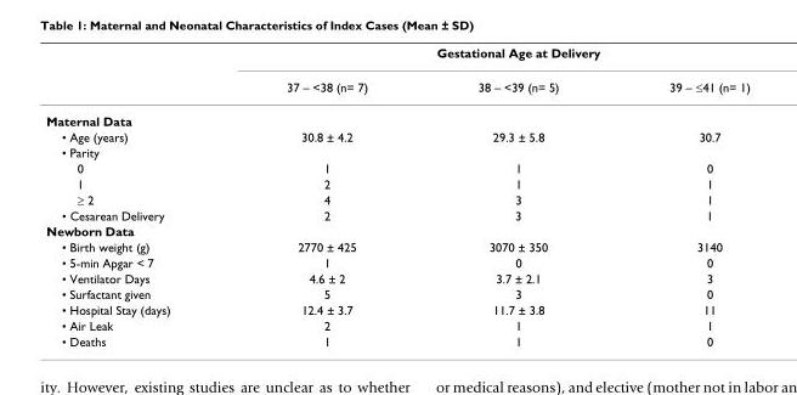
<table><thead><tr><td rowspan="2"></td><td colspan="3">Gestational Age at Delivery</td></tr><tr><td>37 – &lt;38 (n= 7)</td><td>38 – &lt;39 (n= 5)</td><td>39 – ≤41 (n= 1)</td></tr></thead><tbody><tr><td colspan="4">Maternal Data</td></tr><tr><td>• Age (years)</td><td>30.8 ± 4.2</td><td>29.3 ± 5.8</td><td>30.7</td></tr><tr><td colspan="4">• Parity</td></tr><tr><td>0</td><td>1</td><td>1</td><td>0</td></tr><tr><td>1</td><td>2</td><td>1</td><td>1</td></tr><tr><td>≥ 2</td><td>4</td><td>3</td><td>1</td></tr><tr><td>• Cesarean Delivery</td><td>2</td><td>3</td><td>1</td></tr><tr><td colspan="4">Newborn Data</td></tr><tr><td>• Birth weight (g)</td><td>2770 ± 425</td><td>3070 ± 350</td><td>3140</td></tr><tr><td>• 5-min Apgar &lt; 7</td><td>1</td><td>0</td><td>0</td></tr><tr><td>• Ventilator Days</td><td>4.6 ± 2</td><td>3.7 ± 2.1</td><td>3</td></tr><tr><td>• Surfactant given</td><td>5</td><td>3</td><td>0</td></tr><tr><td>• Hospital Stay (days)</td><td>12.4 ± 3.7</td><td>11.7 ± 3.8</td><td>11</td></tr><tr><td>• Air Leak</td><td>2</td><td>1</td><td>1</td></tr><tr><td>• Deaths</td><td>1</td><td>1</td><td>0</td></tr></tbody></table>